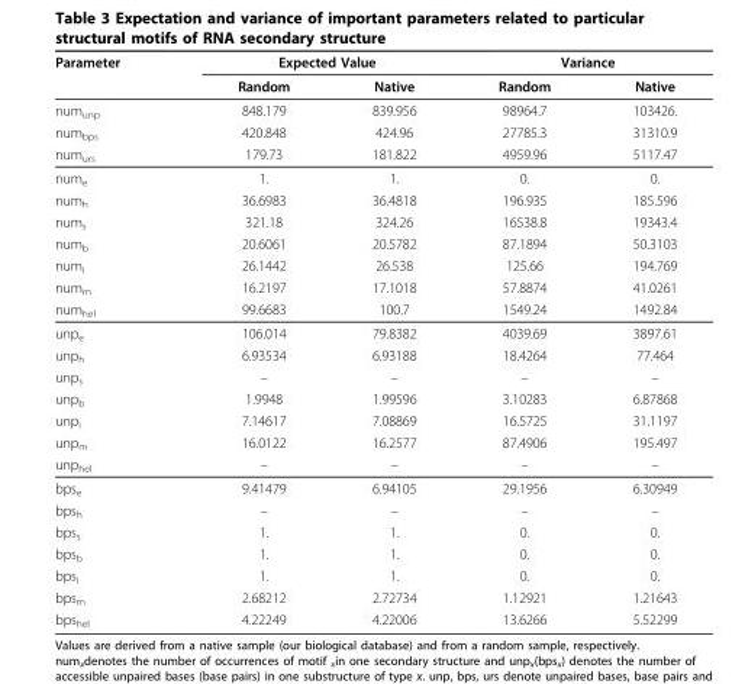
<table><thead><tr><td rowspan="2">Parameter</td><td colspan="2">Expected Value</td><td colspan="2">Variance</td></tr><tr><td>Random</td><td>Native</td><td>Random</td><td>Native</td></tr></thead><tbody><tr><td>numunp</td><td>848.179</td><td>839.956</td><td>98964.7</td><td>103426.</td></tr><tr><td>numbps</td><td>420.848</td><td>424.96</td><td>27785.3</td><td>31310.9</td></tr><tr><td>numurs</td><td>179.73</td><td>181.822</td><td>4959.96</td><td>5117.47</td></tr><tr><td>nume</td><td>1.</td><td>1.</td><td>0.</td><td>0.</td></tr><tr><td>numh</td><td>36.6983</td><td>36.4818</td><td>196.935</td><td>185.596</td></tr><tr><td>nums</td><td>321.18</td><td>324.26</td><td>16538.8</td><td>19343.4</td></tr><tr><td>numb</td><td>20.6061</td><td>20.5782</td><td>87.1894</td><td>50.3103</td></tr><tr><td>numi</td><td>26.1442</td><td>26.538</td><td>125.66</td><td>194.769</td></tr><tr><td>numm</td><td>16.2197</td><td>17.1018</td><td>57.8874</td><td>41.0261</td></tr><tr><td>numhel</td><td>99.6683</td><td>100.7</td><td>1549.24</td><td>1492.84</td></tr><tr><td>unpe</td><td>106.014</td><td>79.8382</td><td>4039.69</td><td>3897.61</td></tr><tr><td>unph</td><td>6.93534</td><td>6.93188</td><td>18.4264</td><td>77.464</td></tr><tr><td>unps</td><td>–</td><td>–</td><td>–</td><td>–</td></tr><tr><td>unpb</td><td>1.9948</td><td>1.99596</td><td>3.10283</td><td>6.87868</td></tr><tr><td>unpi</td><td>7.14617</td><td>7.08869</td><td>16.5725</td><td>31.1197</td></tr><tr><td>unpm</td><td>16.0122</td><td>16.2577</td><td>87.4906</td><td>195.497</td></tr><tr><td>unphel</td><td>–</td><td>–</td><td>–</td><td>–</td></tr><tr><td>bpse</td><td>9.41479</td><td>6.94105</td><td>29.1956</td><td>6.30949</td></tr><tr><td>bpsh</td><td>–</td><td>–</td><td>–</td><td>–</td></tr><tr><td>bpss</td><td>1.</td><td>1.</td><td>0.</td><td>0.</td></tr><tr><td>bpsb</td><td>1.</td><td>1.</td><td>0.</td><td>0.</td></tr><tr><td>bpsi</td><td>1.</td><td>1.</td><td>0.</td><td>0.</td></tr><tr><td>bpsm</td><td>2.68212</td><td>2.72734</td><td>1.12921</td><td>1.21643</td></tr><tr><td>bpshel</td><td>4.22249</td><td>4.22006</td><td>13.6266</td><td>5.52299</td></tr></tbody></table>